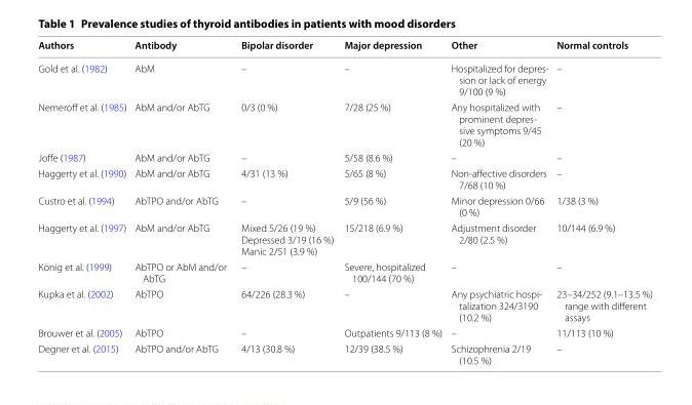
<table><thead><tr><td>Authors</td><td>Antibody</td><td>Bipolar disorder</td><td>Major depression</td><td>Other</td><td>Normal controls</td></tr></thead><tbody><tr><td>Gold et al. (1982)</td><td>AbM</td><td>–</td><td>–</td><td>Hospitalized for depres- sion or lack of energy 9/100 (9 %)</td><td>–</td></tr><tr><td>Nemeroff et al. (1985)</td><td>AbM and/or AbTG</td><td>0/3 (0 %)</td><td>7/28 (25 %)</td><td>Any hospitalized with prominent depres- sive symptoms 9/45 (20 %)</td><td>–</td></tr><tr><td>Joffe (1987)</td><td>AbM and/or AbTG</td><td>–</td><td>5/58 (8.6 %)</td><td>–</td><td>–</td></tr><tr><td>Haggerty et al. (1990)</td><td>AbM and/or AbTG</td><td>4/31 (13 %)</td><td>5/65 (8 %)</td><td>Non-affective disorders 7/68 (10 %)</td><td>–</td></tr><tr><td>Custro et al. (1994)</td><td>AbTPO and/or AbTG</td><td>–</td><td>5/9 (56 %)</td><td>Minor depression 0/66 (0 %)</td><td>1/38 (3 %)</td></tr><tr><td>Haggerty et al. (1997)</td><td>AbM and/or AbTG</td><td>Mixed 5/26 (19 %) Depressed 3/19 (16 %) Manic 2/51 (3.9 %)</td><td>15/218 (6.9 %)</td><td>Adjustment disorder 2/80 (2.5 %)</td><td>10/144 (6.9 %)</td></tr><tr><td>König et al. (1999)</td><td>AbTPO or AbM and/or AbTG</td><td>–</td><td>Severe, hospitalized 100/144 (70 %)</td><td>–</td><td>–</td></tr><tr><td>Kupka et al. (2002)</td><td>AbTPO</td><td>64/226 (28.3 %)</td><td>–</td><td>Any psychiatric hospi- talization 324/3190 (10.2 %)</td><td>23–34/252 (9.1–13.5 %) range with different assays</td></tr><tr><td>Brouwer et al. (2005)</td><td>AbTPO</td><td>–</td><td>Outpatients 9/113 (8 %)</td><td>–</td><td>11/113 (10 %)</td></tr><tr><td>Degner et al. (2015)</td><td>AbTPO and/or AbTG</td><td>4/13 (30.8 %)</td><td>12/39 (38.5 %)</td><td>Schizophrenia 2/19 (10.5 %)</td><td>–</td></tr></tbody></table>